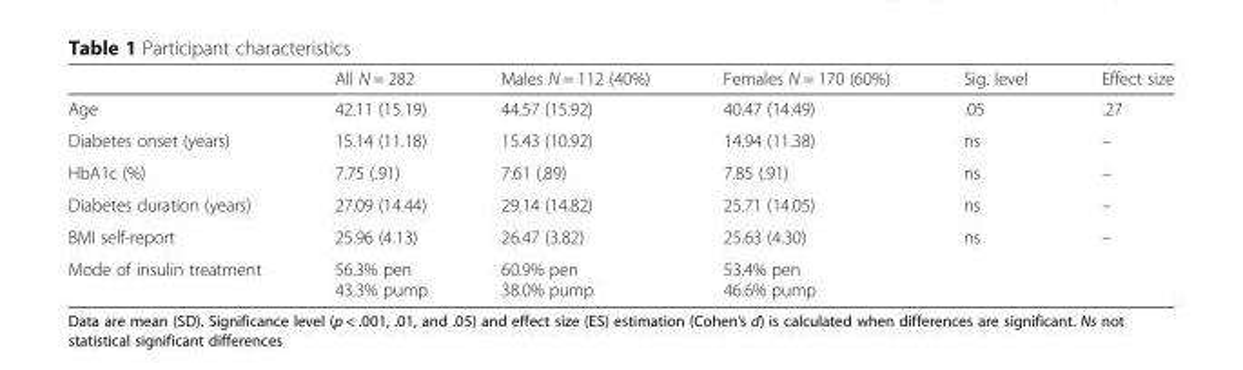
<table><thead><tr><td></td><td>All N = 282</td><td>Males N = 112 (40%)</td><td>Females N = 170 (60%)</td><td>Sig. level</td><td>Effect size</td></tr></thead><tbody><tr><td>Age</td><td>42.11 (15.19)</td><td>44.57 (15.92)</td><td>40.47 (14.49)</td><td>.05</td><td>.27</td></tr><tr><td>Diabetes onset (years)</td><td>15.14 (11.18)</td><td>15.43 (10.92)</td><td>14.94 (11.38)</td><td>ns</td><td>–</td></tr><tr><td>HbA1c (%)</td><td>7.75 (.91)</td><td>7.61 (.89)</td><td>7.85 (.91)</td><td>ns</td><td>–</td></tr><tr><td>Diabetes duration (years)</td><td>27.09 (14.44)</td><td>29.14 (14.82)</td><td>25.71 (14.05)</td><td>ns</td><td>–</td></tr><tr><td>BMI self-report</td><td>25.96 (4.13)</td><td>26.47 (3.82)</td><td>25.63 (4.30)</td><td>ns</td><td>–</td></tr><tr><td>Mode of insulin treatment</td><td>56.3% pen 43.3% pump</td><td>60.9% pen 38.0% pump</td><td>53.4% pen 46.6% pump</td><td></td><td></td></tr></tbody></table>